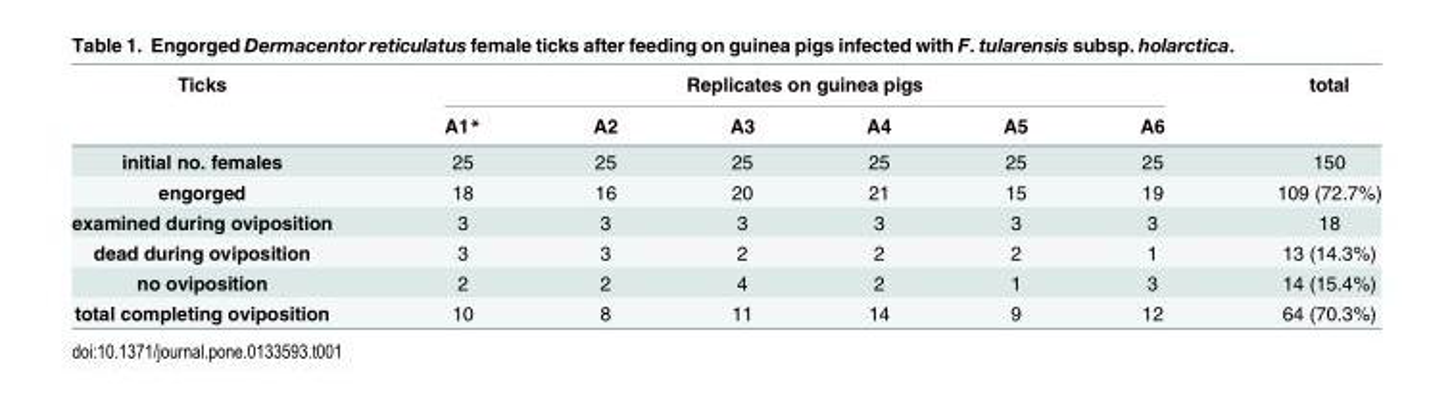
<table><thead><tr><td rowspan="2">Ticks</td><td colspan="6">Replicates on guinea pigs</td><td rowspan="2">total</td></tr><tr><td>A1*</td><td>A2</td><td>A3</td><td>A4</td><td>A5</td><td>A6</td></tr></thead><tbody><tr><td>initial no. females</td><td>25</td><td>25</td><td>25</td><td>25</td><td>25</td><td>25</td><td>150</td></tr><tr><td>engorged</td><td>18</td><td>16</td><td>20</td><td>21</td><td>15</td><td>19</td><td>109 (72.7%)</td></tr><tr><td>examined during oviposition</td><td>3</td><td>3</td><td>3</td><td>3</td><td>3</td><td>3</td><td>18</td></tr><tr><td>dead during oviposition</td><td>3</td><td>3</td><td>2</td><td>2</td><td>2</td><td>1</td><td>13 (14.3%)</td></tr><tr><td>no oviposition</td><td>2</td><td>2</td><td>4</td><td>2</td><td>1</td><td>3</td><td>14 (15.4%)</td></tr><tr><td>total completing oviposition</td><td>10</td><td>8</td><td>11</td><td>14</td><td>9</td><td>12</td><td>64 (70.3%)</td></tr></tbody></table>